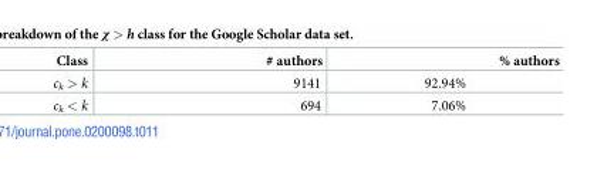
<table><thead><tr><td>Class</td><td># authors</td><td>% authors</td></tr></thead><tbody><tr><td>c<sub>k</sub> &gt; k</td><td>9141</td><td>92.94%</td></tr><tr><td>c<sub>k</sub> &lt; k</td><td>694</td><td>7.06%</td></tr></tbody></table>